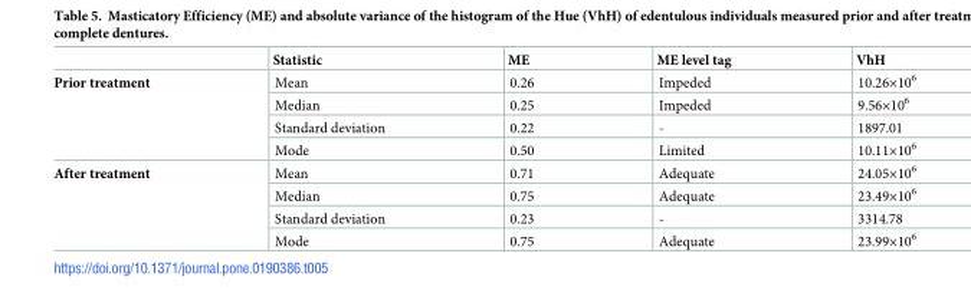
<table><thead><tr><td></td><td>Statistic</td><td>ME</td><td>ME level tag</td><td>VhH</td></tr></thead><tbody><tr><td rowspan="4">Prior treatment</td><td>Mean</td><td>0.26</td><td>Impeded</td><td>10.26×10<sup>6</sup></td></tr><tr><td>Median</td><td>0.25</td><td>Impeded</td><td>9.56×10<sup>6</sup></td></tr><tr><td>Standard deviation</td><td>0.22</td><td>-</td><td>1897.01</td></tr><tr><td>Mode</td><td>0.50</td><td>Limited</td><td>10.11×10<sup>6</sup></td></tr><tr><td rowspan="4">After treatment</td><td>Mean</td><td>0.71</td><td>Adequate</td><td>24.05×10<sup>6</sup></td></tr><tr><td>Median</td><td>0.75</td><td>Adequate</td><td>23.49×10<sup>6</sup></td></tr><tr><td>Standard deviation</td><td>0.23</td><td>-</td><td>3314.78</td></tr><tr><td>Mode</td><td>0.75</td><td>Adequate</td><td>23.99×10<sup>6</sup></td></tr></tbody></table>